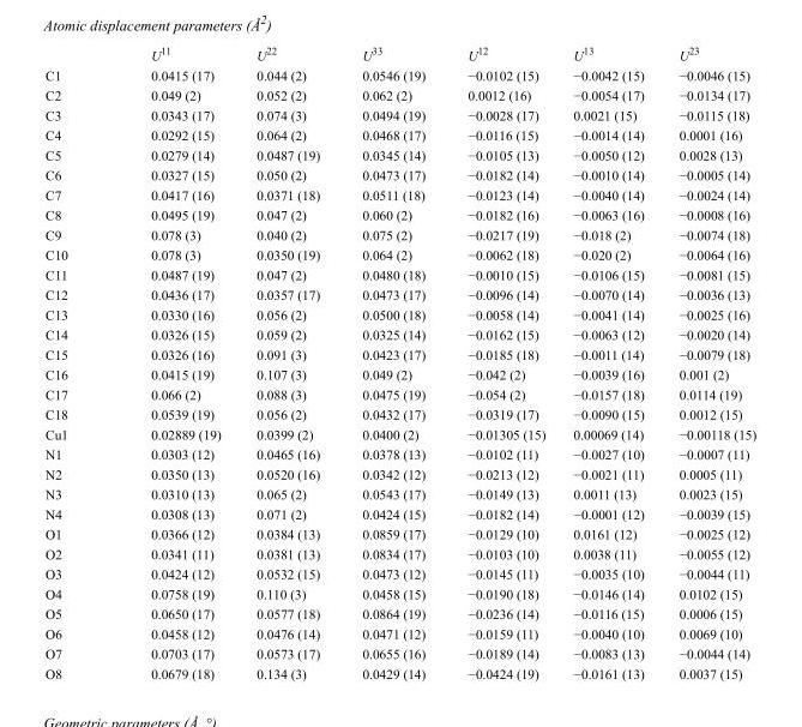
<table><thead><tr><td></td><td>U<sup>11</sup></td><td>U<sup>22</sup></td><td>U<sup>33</sup></td><td>U<sup>12</sup></td><td>U<sup>13</sup></td><td>U<sup>23</sup></td></tr></thead><tbody><tr><td>C1</td><td>0.0415 (17)</td><td>0.044 (2)</td><td>0.0546 (19)</td><td>−0.0102 (15)</td><td>−0.0042 (15)</td><td>−0.0046 (15)</td></tr><tr><td>C2</td><td>0.049 (2)</td><td>0.052 (2)</td><td>0.062 (2)</td><td>0.0012 (16)</td><td>−0.0054 (17)</td><td>−0.0134 (17)</td></tr><tr><td>C3</td><td>0.0343 (17)</td><td>0.074 (3)</td><td>0.0494 (19)</td><td>−0.0028 (17)</td><td>0.0021 (15)</td><td>−0.0115 (18)</td></tr><tr><td>C4</td><td>0.0292 (15)</td><td>0.064 (2)</td><td>0.0468 (17)</td><td>−0.0116 (15)</td><td>−0.0014 (14)</td><td>0.0001 (16)</td></tr><tr><td>C5</td><td>0.0279 (14)</td><td>0.0487 (19)</td><td>0.0345 (14)</td><td>−0.0105 (13)</td><td>−0.0050 (12)</td><td>0.0028 (13)</td></tr><tr><td>C6</td><td>0.0327 (15)</td><td>0.050 (2)</td><td>0.0473 (17)</td><td>−0.0182 (14)</td><td>−0.0010 (14)</td><td>−0.0005 (14)</td></tr><tr><td>C7</td><td>0.0417 (16)</td><td>0.0371 (18)</td><td>0.0511 (18)</td><td>−0.0123 (14)</td><td>−0.0040 (14)</td><td>−0.0024 (14)</td></tr><tr><td>C8</td><td>0.0495 (19)</td><td>0.047 (2)</td><td>0.060 (2)</td><td>−0.0182 (16)</td><td>−0.0063 (16)</td><td>−0.0008 (16)</td></tr><tr><td>C9</td><td>0.078 (3)</td><td>0.040 (2)</td><td>0.075 (2)</td><td>−0.0217 (19)</td><td>−0.018 (2)</td><td>−0.0074 (18)</td></tr><tr><td>C10</td><td>0.078 (3)</td><td>0.0350 (19)</td><td>0.064 (2)</td><td>−0.0062 (18)</td><td>−0.020 (2)</td><td>−0.0064 (16)</td></tr><tr><td>C11</td><td>0.0487 (19)</td><td>0.047 (2)</td><td>0.0480 (18)</td><td>−0.0010 (15)</td><td>−0.0106 (15)</td><td>−0.0081 (15)</td></tr><tr><td>C12</td><td>0.0436 (17)</td><td>0.0357 (17)</td><td>0.0473 (17)</td><td>−0.0096 (14)</td><td>−0.0070 (14)</td><td>−0.0036 (13)</td></tr><tr><td>C13</td><td>0.0330 (16)</td><td>0.056 (2)</td><td>0.0500 (18)</td><td>−0.0058 (14)</td><td>−0.0041 (14)</td><td>−0.0025 (16)</td></tr><tr><td>C14</td><td>0.0326 (15)</td><td>0.059 (2)</td><td>0.0325 (14)</td><td>−0.0162 (15)</td><td>−0.0063 (12)</td><td>−0.0020 (14)</td></tr><tr><td>C15</td><td>0.0326 (16)</td><td>0.091 (3)</td><td>0.0423 (17)</td><td>−0.0185 (18)</td><td>−0.0011 (14)</td><td>−0.0079 (18)</td></tr><tr><td>C16</td><td>0.0415 (19)</td><td>0.107 (3)</td><td>0.049 (2)</td><td>−0.042 (2)</td><td>−0.0039 (16)</td><td>0.001 (2)</td></tr><tr><td>C17</td><td>0.066 (2)</td><td>0.088 (3)</td><td>0.0475 (19)</td><td>−0.054 (2)</td><td>−0.0157 (18)</td><td>0.0114 (19)</td></tr><tr><td>C18</td><td>0.0539 (19)</td><td>0.056 (2)</td><td>0.0432 (17)</td><td>−0.0319 (17)</td><td>−0.0090 (15)</td><td>0.0012 (15)</td></tr><tr><td>Cu1</td><td>0.02889 (19)</td><td>0.0399 (2)</td><td>0.0400 (2)</td><td>−0.01305 (15)</td><td>0.00069 (14)</td><td>−0.00118 (15)</td></tr><tr><td>N1</td><td>0.0303 (12)</td><td>0.0465 (16)</td><td>0.0378 (13)</td><td>−0.0102 (11)</td><td>−0.0027 (10)</td><td>−0.0007 (11)</td></tr><tr><td>N2</td><td>0.0350 (13)</td><td>0.0520 (16)</td><td>0.0342 (12)</td><td>−0.0213 (12)</td><td>−0.0021 (11)</td><td>0.0005 (11)</td></tr><tr><td>N3</td><td>0.0310 (13)</td><td>0.065 (2)</td><td>0.0543 (17)</td><td>−0.0149 (13)</td><td>0.0011 (13)</td><td>0.0023 (15)</td></tr><tr><td>N4</td><td>0.0308 (13)</td><td>0.071 (2)</td><td>0.0424 (15)</td><td>−0.0182 (14)</td><td>−0.0001 (12)</td><td>−0.0039 (15)</td></tr><tr><td>O1</td><td>0.0366 (12)</td><td>0.0384 (13)</td><td>0.0859 (17)</td><td>−0.0129 (10)</td><td>0.0161 (12)</td><td>−0.0025 (12)</td></tr><tr><td>O2</td><td>0.0341 (11)</td><td>0.0381 (13)</td><td>0.0834 (17)</td><td>−0.0103 (10)</td><td>0.0038 (11)</td><td>−0.0055 (12)</td></tr><tr><td>O3</td><td>0.0424 (12)</td><td>0.0532 (15)</td><td>0.0473 (12)</td><td>−0.0145 (11)</td><td>−0.0035 (10)</td><td>−0.0044 (11)</td></tr><tr><td>O4</td><td>0.0758 (19)</td><td>0.110 (3)</td><td>0.0458 (15)</td><td>−0.0190 (18)</td><td>−0.0146 (14)</td><td>0.0102 (15)</td></tr><tr><td>O5</td><td>0.0650 (17)</td><td>0.0577 (18)</td><td>0.0864 (19)</td><td>−0.0236 (14)</td><td>−0.0116 (15)</td><td>0.0006 (15)</td></tr><tr><td>O6</td><td>0.0458 (12)</td><td>0.0476 (14)</td><td>0.0471 (12)</td><td>−0.0159 (11)</td><td>−0.0040 (10)</td><td>0.0069 (10)</td></tr><tr><td>O7</td><td>0.0703 (17)</td><td>0.0573 (17)</td><td>0.0655 (16)</td><td>−0.0189 (14)</td><td>−0.0083 (13)</td><td>−0.0044 (14)</td></tr><tr><td>O8</td><td>0.0679 (18)</td><td>0.134 (3)</td><td>0.0429 (14)</td><td>−0.0424 (19)</td><td>−0.0161 (13)</td><td>0.0037 (15)</td></tr></tbody></table>